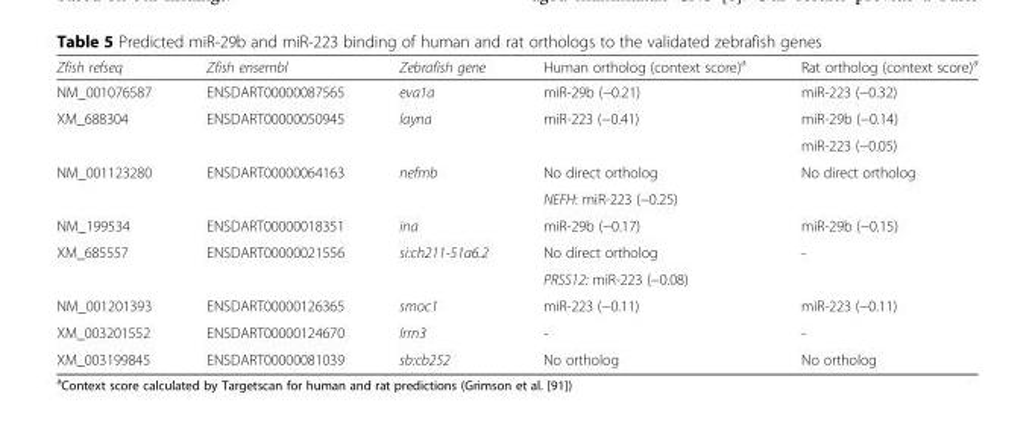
<table><thead><tr><td>Zfish refseq</td><td>Zfish ensembl</td><td>Zebrafish gene</td><td>Human ortholog (context score)<sup>a</sup></td><td>Rat ortholog (context score)<sup>a</sup></td></tr></thead><tbody><tr><td>NM_001076587</td><td>ENSDART00000087565</td><td>eva1a</td><td>miR-29b (−0.21)</td><td>miR-223 (−0.32)</td></tr><tr><td rowspan="2">XM_688304</td><td rowspan="2">ENSDART00000050945</td><td rowspan="2">layna</td><td rowspan="2">miR-223 (−0.41)</td><td>miR-29b (−0.14)</td></tr><tr><td>miR-223 (−0.05)</td></tr><tr><td rowspan="2">NM_001123280</td><td rowspan="2">ENSDART00000064163</td><td rowspan="2">nefmb</td><td>No direct ortholog</td><td rowspan="2">No direct ortholog</td></tr><tr><td>NEFH: miR-223 (−0.25)</td></tr><tr><td>NM_199534</td><td>ENSDART00000018351</td><td>ina</td><td>miR-29b (−0.17)</td><td>miR-29b (−0.15)</td></tr><tr><td rowspan="2">XM_685557</td><td rowspan="2">ENSDART00000021556</td><td rowspan="2">si:ch211-51a6.2</td><td>No direct ortholog</td><td rowspan="2">-</td></tr><tr><td>PRSS12: miR-223 (−0.08)</td></tr><tr><td>NM_001201393</td><td>ENSDART00000126365</td><td>smoc1</td><td>miR-223 (−0.11)</td><td>miR-223 (−0.11)</td></tr><tr><td>XM_003201552</td><td>ENSDART00000124670</td><td>lrrn3</td><td>-</td><td>-</td></tr><tr><td>XM_003199845</td><td>ENSDART00000081039</td><td>sb:cb252</td><td>No ortholog</td><td>No ortholog</td></tr></tbody></table>